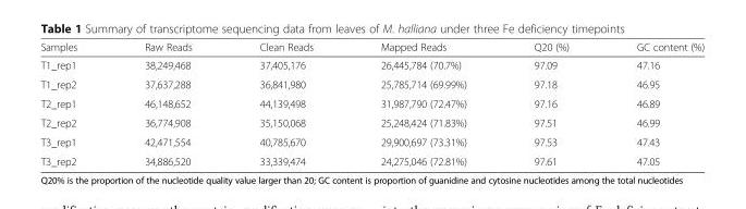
<table><thead><tr><td>Samples</td><td>Raw Reads</td><td>Clean Reads</td><td>Mapped Reads</td><td>Q20 (%)</td><td>GC content (%)</td></tr></thead><tbody><tr><td>T1_rep1</td><td>38,249,468</td><td>37,405,176</td><td>26,445,784 (70.7%)</td><td>97.09</td><td>47.16</td></tr><tr><td>T1_rep2</td><td>37,637,288</td><td>36,841,980</td><td>25,785,714 (69.99%)</td><td>97.18</td><td>46.95</td></tr><tr><td>T2_rep1</td><td>46,148,652</td><td>44,139,498</td><td>31,987,790 (72.47%)</td><td>97.16</td><td>46.89</td></tr><tr><td>T2_rep2</td><td>36,774,908</td><td>35,150,068</td><td>25,248,424 (71.83%)</td><td>97.51</td><td>46.99</td></tr><tr><td>T3_rep1</td><td>42,471,554</td><td>40,785,670</td><td>29,900,697 (73.31%)</td><td>97.53</td><td>47.43</td></tr><tr><td>T3_rep2</td><td>34,886,520</td><td>33,339,474</td><td>24,275,046 (72.81%)</td><td>97.61</td><td>47.05</td></tr></tbody></table>